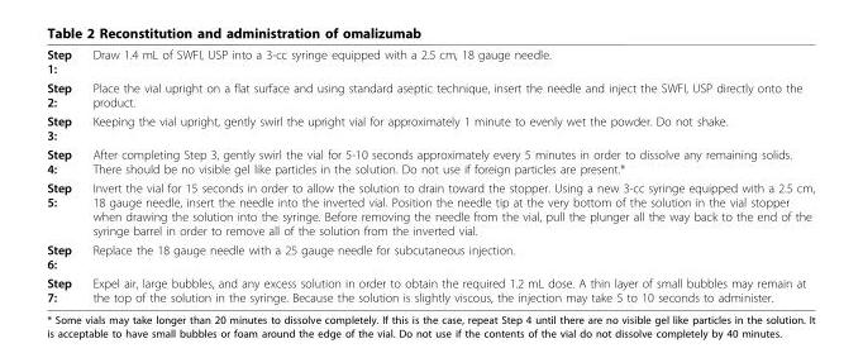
<table><tbody><tr><td>Step 1:</td><td>Draw 1.4 mL of SWFI, USP into a 3-cc syringe equipped with a 2.5 cm, 18 gauge needle.</td></tr><tr><td>Step 2:</td><td>Place the vial upright on a flat surface and using standard aseptic technique, insert the needle and inject the SWFI, USP directly onto the product.</td></tr><tr><td>Step 3:</td><td>Keeping the vial upright, gently swirl the upright vial for approximately 1 minute to evenly wet the powder. Do not shake.</td></tr><tr><td>Step 4:</td><td>After completing Step 3, gently swirl the vial for 5-10 seconds approximately every 5 minutes in order to dissolve any remaining solids. There should be no visible gel like particles in the solution. Do not use if foreign particles are present.*</td></tr><tr><td>Step 5:</td><td>Invert the vial for 15 seconds in order to allow the solution to drain toward the stopper. Using a new 3-cc syringe equipped with a 2.5 cm, 18 gauge needle, insert the needle into the inverted vial. Position the needle tip at the very bottom of the solution in the vial stopper when drawing the solution into the syringe. Before removing the needle from the vial, pull the plunger all the way back to the end of the syringe barrel in order to remove all of the solution from the inverted vial.</td></tr><tr><td>Step 6:</td><td>Replace the 18 gauge needle with a 25 gauge needle for subcutaneous injection.</td></tr><tr><td>Step 7:</td><td>Expel air, large bubbles, and any excess solution in order to obtain the required 1.2 mL dose. A thin layer of small bubbles may remain at the top of the solution in the syringe. Because the solution is slightly viscous, the injection may take 5 to 10 seconds to administer.</td></tr></tbody></table>